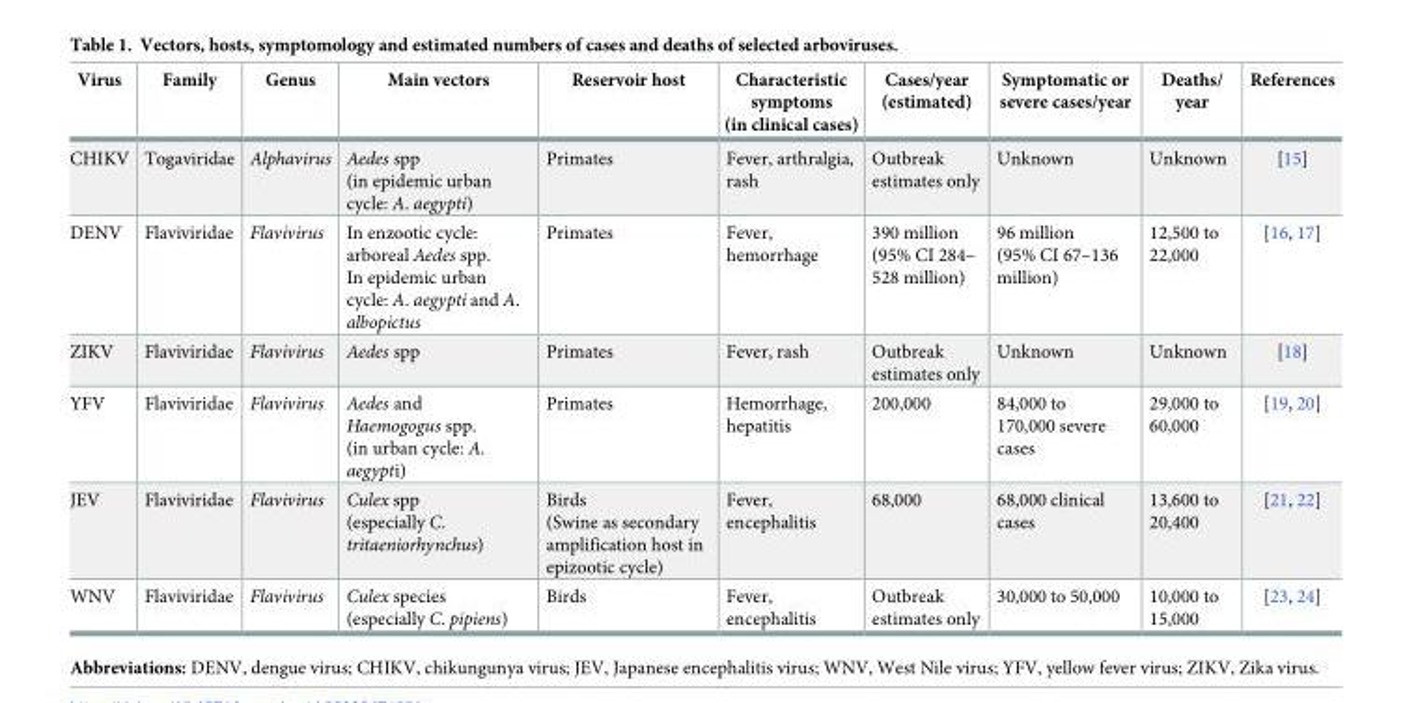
<table><thead><tr><td>Virus</td><td>Family</td><td>Genus</td><td>Main vectors</td><td>Reservoir host</td><td>Characteristic symptoms (in clinical cases)</td><td>Cases/year (estimated)</td><td>Symptomatic or severe cases/year</td><td>Deaths/ year</td><td>References</td></tr></thead><tbody><tr><td>CHIKV</td><td>Togaviridae</td><td>Alphavirus</td><td>Aedes spp (in epidemic urban cycle: A. aegypti)</td><td>Primates</td><td>Fever, arthralgia, rash</td><td>Outbreak estimates only</td><td>Unknown</td><td>Unknown</td><td>[15]</td></tr><tr><td>DENV</td><td>Flaviviridae</td><td>Flavivirus</td><td>In enzootic cycle: arboreal Aedes spp. In epidemic urban cycle: A. aegypti and A. albopictus</td><td>Primates</td><td>Fever, hemorrhage</td><td>390 million (95% CI 284– 528 million)</td><td>96 million (95% CI 67–136 million)</td><td>12,500 to 22,000</td><td>[16, 17]</td></tr><tr><td>ZIKV</td><td>Flaviviridae</td><td>Flavivirus</td><td>Aedes spp</td><td>Primates</td><td>Fever, rash</td><td>Outbreak estimates only</td><td>Unknown</td><td>Unknown</td><td>[18]</td></tr><tr><td>YFV</td><td>Flaviviridae</td><td>Flavivirus</td><td>Aedes and Haemogogus spp. (in urban cycle: A. aegypti)</td><td>Primates</td><td>Hemorrhage, hepatitis</td><td>200,000</td><td>84,000 to 170,000 severe cases</td><td>29,000 to 60,000</td><td>[19, 20]</td></tr><tr><td>JEV</td><td>Flaviviridae</td><td>Flavivirus</td><td>Culex spp (especially C. tritaeniorhynchus)</td><td>Birds (Swine as secondary amplification host in epizootic cycle)</td><td>Fever, encephalitis</td><td>68,000</td><td>68,000 clinical cases</td><td>13,600 to 20,400</td><td>[21, 22]</td></tr><tr><td>WNV</td><td>Flaviviridae</td><td>Flavivirus</td><td>Culex species (especially C. pipiens)</td><td>Birds</td><td>Fever, encephalitis</td><td>Outbreak estimates only</td><td>30,000 to 50,000</td><td>10,000 to 15,000</td><td>[23, 24]</td></tr></tbody></table>